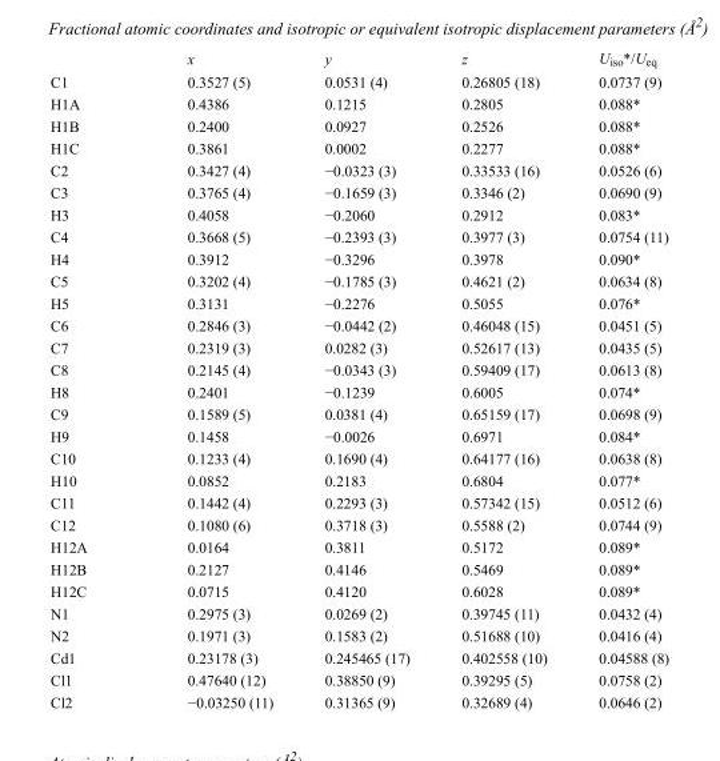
<table><thead><tr><td></td><td>x</td><td>y</td><td>z</td><td>U<sub>iso</sub>*/U<sub>eq</sub></td></tr></thead><tbody><tr><td>C1</td><td>0.3527 (5)</td><td>0.0531 (4)</td><td>0.26805 (18)</td><td>0.0737 (9)</td></tr><tr><td>H1A</td><td>0.4386</td><td>0.1215</td><td>0.2805</td><td>0.088*</td></tr><tr><td>H1B</td><td>0.2400</td><td>0.0927</td><td>0.2526</td><td>0.088*</td></tr><tr><td>H1C</td><td>0.3861</td><td>0.0002</td><td>0.2277</td><td>0.088*</td></tr><tr><td>C2</td><td>0.3427 (4)</td><td>−0.0323 (3)</td><td>0.33533 (16)</td><td>0.0526 (6)</td></tr><tr><td>C3</td><td>0.3765 (4)</td><td>−0.1659 (3)</td><td>0.3346 (2)</td><td>0.0690 (9)</td></tr><tr><td>H3</td><td>0.4058</td><td>−0.2060</td><td>0.2912</td><td>0.083*</td></tr><tr><td>C4</td><td>0.3668 (5)</td><td>−0.2393 (3)</td><td>0.3977 (3)</td><td>0.0754 (11)</td></tr><tr><td>H4</td><td>0.3912</td><td>−0.3296</td><td>0.3978</td><td>0.090*</td></tr><tr><td>C5</td><td>0.3202 (4)</td><td>−0.1785 (3)</td><td>0.4621 (2)</td><td>0.0634 (8)</td></tr><tr><td>H5</td><td>0.3131</td><td>−0.2276</td><td>0.5055</td><td>0.076*</td></tr><tr><td>C6</td><td>0.2846 (3)</td><td>−0.0442 (2)</td><td>0.46048 (15)</td><td>0.0451 (5)</td></tr><tr><td>C7</td><td>0.2319 (3)</td><td>0.0282 (3)</td><td>0.52617 (13)</td><td>0.0435 (5)</td></tr><tr><td>C8</td><td>0.2145 (4)</td><td>−0.0343 (3)</td><td>0.59409 (17)</td><td>0.0613 (8)</td></tr><tr><td>H8</td><td>0.2401</td><td>−0.1239</td><td>0.6005</td><td>0.074*</td></tr><tr><td>C9</td><td>0.1589 (5)</td><td>0.0381 (4)</td><td>0.65159 (17)</td><td>0.0698 (9)</td></tr><tr><td>H9</td><td>0.1458</td><td>−0.0026</td><td>0.6971</td><td>0.084*</td></tr><tr><td>C10</td><td>0.1233 (4)</td><td>0.1690 (4)</td><td>0.64177 (16)</td><td>0.0638 (8)</td></tr><tr><td>H10</td><td>0.0852</td><td>0.2183</td><td>0.6804</td><td>0.077*</td></tr><tr><td>C11</td><td>0.1442 (4)</td><td>0.2293 (3)</td><td>0.57342 (15)</td><td>0.0512 (6)</td></tr><tr><td>C12</td><td>0.1080 (6)</td><td>0.3718 (3)</td><td>0.5588 (2)</td><td>0.0744 (9)</td></tr><tr><td>H12A</td><td>0.0164</td><td>0.3811</td><td>0.5172</td><td>0.089*</td></tr><tr><td>H12B</td><td>0.2127</td><td>0.4146</td><td>0.5469</td><td>0.089*</td></tr><tr><td>H12C</td><td>0.0715</td><td>0.4120</td><td>0.6028</td><td>0.089*</td></tr><tr><td>N1</td><td>0.2975 (3)</td><td>0.0269 (2)</td><td>0.39745 (11)</td><td>0.0432 (4)</td></tr><tr><td>N2</td><td>0.1971 (3)</td><td>0.1583 (2)</td><td>0.51688 (10)</td><td>0.0416 (4)</td></tr><tr><td>Cd1</td><td>0.23178 (3)</td><td>0.245465 (17)</td><td>0.402558 (10)</td><td>0.04588 (8)</td></tr><tr><td>Cl1</td><td>0.47640 (12)</td><td>0.38850 (9)</td><td>0.39295 (5)</td><td>0.0758 (2)</td></tr><tr><td>Cl2</td><td>−0.03250 (11)</td><td>0.31365 (9)</td><td>0.32689 (4)</td><td>0.0646 (2)</td></tr></tbody></table>